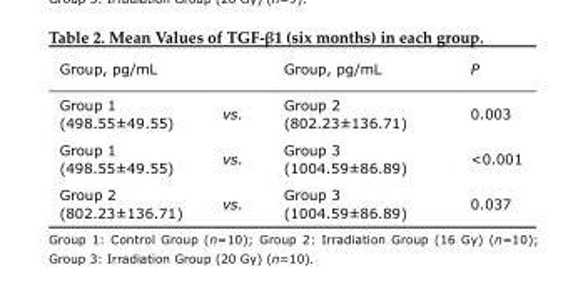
<table><thead><tr><td>Group, pg/mL</td><td></td><td>Group, pg/mL</td><td>P</td></tr></thead><tbody><tr><td>Group 1 (498.55±49.55)</td><td>vs.</td><td>Group 2 (802.23±136.71)</td><td>0.003</td></tr><tr><td>Group 1 (498.55±49.55)</td><td>vs.</td><td>Group 3 (1004.59±86.89)</td><td>&lt;0.001</td></tr><tr><td>Group 2 (802.23±136.71)</td><td>vs.</td><td>Group 3 (1004.59±86.89)</td><td>0.037</td></tr></tbody></table>